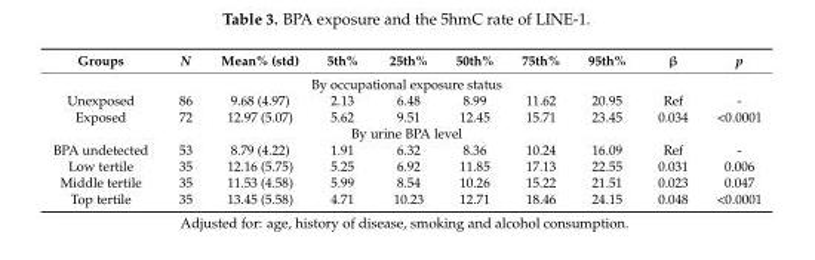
<table><thead><tr><td>Groups</td><td>N</td><td>Mean% (std)</td><td>5th%</td><td>25th%</td><td>50th%</td><td>75th%</td><td>95th%</td><td>β</td><td>p</td></tr></thead><tbody><tr><td colspan="10">By occupational exposure status</td></tr><tr><td>Unexposed</td><td>86</td><td>9.68 (4.97)</td><td>2.13</td><td>6.48</td><td>8.99</td><td>11.62</td><td>20.95</td><td>Ref</td><td>-</td></tr><tr><td>Exposed</td><td>72</td><td>12.97 (5.07)</td><td>5.62</td><td>9.51</td><td>12.45</td><td>15.71</td><td>23.45</td><td>0.034</td><td>&lt;0.0001</td></tr><tr><td colspan="10">By urine BPA level</td></tr><tr><td>BPA undetected</td><td>53</td><td>8.79 (4.22)</td><td>1.91</td><td>6.32</td><td>8.36</td><td>10.24</td><td>16.09</td><td>Ref</td><td>-</td></tr><tr><td>Low tertile</td><td>35</td><td>12.16 (5.75)</td><td>5.25</td><td>6.92</td><td>11.85</td><td>17.13</td><td>22.55</td><td>0.031</td><td>0.006</td></tr><tr><td>Middle tertile</td><td>35</td><td>11.53 (4.58)</td><td>5.99</td><td>8.54</td><td>10.26</td><td>15.22</td><td>21.51</td><td>0.023</td><td>0.047</td></tr><tr><td>Top tertile</td><td>35</td><td>13.45 (5.58)</td><td>4.71</td><td>10.23</td><td>12.71</td><td>18.46</td><td>24.15</td><td>0.048</td><td>&lt;0.0001</td></tr></tbody></table>